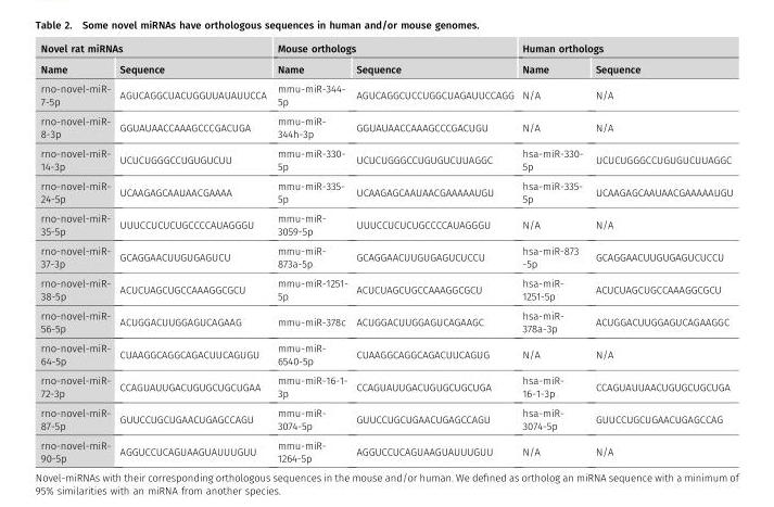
<table><thead><tr><td colspan="2">Novel rat miRNAs</td><td colspan="2">Mouse orthologs</td><td colspan="2">Human orthologs</td></tr><tr><td>Name</td><td>Sequence</td><td>Name</td><td>Sequence</td><td>Name</td><td>Sequence</td></tr></thead><tbody><tr><td>rno-novel-miR- 7-5p</td><td>AGUCAGGCUACUGGUUAUAUUCCA</td><td>mmu-miR-344- 5p</td><td>AGUCAGGCUCCUGGCUAGAUUCCAGG</td><td>N/A</td><td>N/A</td></tr><tr><td>rno-novel-miR- 8-3p</td><td>GGUAUAACCAAAGCCCGACUGA</td><td>mmu-miR- 344h-3p</td><td>GGUAUAACCAAAGCCCGACUGU</td><td>N/A</td><td>N/A</td></tr><tr><td>rno-novel-miR- 14-3p</td><td>UCUCUGGGCCUGUGUCUU</td><td>mmu-miR-330- 5p</td><td>UCUCUGGGCCUGUGUCUUAGGC</td><td>hsa-miR-330- 5p</td><td>UCUCUGGGCCUGUGUCUUAGGC</td></tr><tr><td>rno-novel-miR- 24-5p</td><td>UCAAGAGCAAUAACGAAAA</td><td>mmu-miR-335- 5p</td><td>UCAAGAGCAAUAACGAAAAAUGU</td><td>hsa-miR-335- 5p</td><td>UCAAGAGCAAUAACGAAAAAUGU</td></tr><tr><td>rno-novel-miR- 35-5p</td><td>UUUCCUCUCUGCCCCAUAGGGU</td><td>mmu-miR- 3059-5p</td><td>UUUCCUCUCUGCCCCAUAGGGU</td><td>N/A</td><td>N/A</td></tr><tr><td>rno-novel-miR- 37-3p</td><td>GCAGGAACUUGUGAGUCU</td><td>mmu-miR- 873a-5p</td><td>GCAGGAACUUGUGAGUCUCCU</td><td>hsa-miR-873 -5p</td><td>GCAGGAACUUGUGAGUCUCCU</td></tr><tr><td>rno-novel-miR- 38-5p</td><td>ACUCUAGCUGCCAAAGGCGCU</td><td>mmu-miR-1251- 5p</td><td>ACUCUAGCUGCCAAAGGCGCU</td><td>hsa-miR- 1251-5p</td><td>ACUCUAGCUGCCAAAGGCGCU</td></tr><tr><td>rno-novel-miR- 56-5p</td><td>ACUGGACUUGGAGUCAGAAG</td><td>mmu-miR-378c</td><td>ACUGGACUUGGAGUCAGAAGC</td><td>hsa-miR- 378a-3p</td><td>ACUGGACUUGGAGUCAGAAGGC</td></tr><tr><td>rno-novel-miR- 64-5p</td><td>CUAAGGCAGGCAGACUUCAGUGU</td><td>mmu-miR- 6540-5p</td><td>CUAAGGCAGGCAGACUUCAGUG</td><td>N/A</td><td>N/A</td></tr><tr><td>rno-novel-miR- 72-3p</td><td>CCAGUAUUGACUGUGCUGCUGAA</td><td>mmu-miR-16-1- 3p</td><td>CCAGUAUUGACUGUGCUGCUGA</td><td>hsa-miR- 16-1-3p</td><td>CCAGUAUUAACUGUGCUGCUGA</td></tr><tr><td>rno-novel-miR- 87-5p</td><td>GUUCCUGCUGAACUGAGCCAGU</td><td>mmu-miR- 3074-5p</td><td>GUUCCUGCUGAACUGAGCCAGU</td><td>hsa-miR- 3074-5p</td><td>GUUCCUGCUGAACUGAGCCAG</td></tr><tr><td>rno-novel-miR- 90-5p</td><td>AGGUCCUCAGUAAGUAUUUGUU</td><td>mmu-miR- 1264-5p</td><td>AGGUCCUCAGUAAGUAUUUGUU</td><td>N/A</td><td>N/A</td></tr></tbody></table>